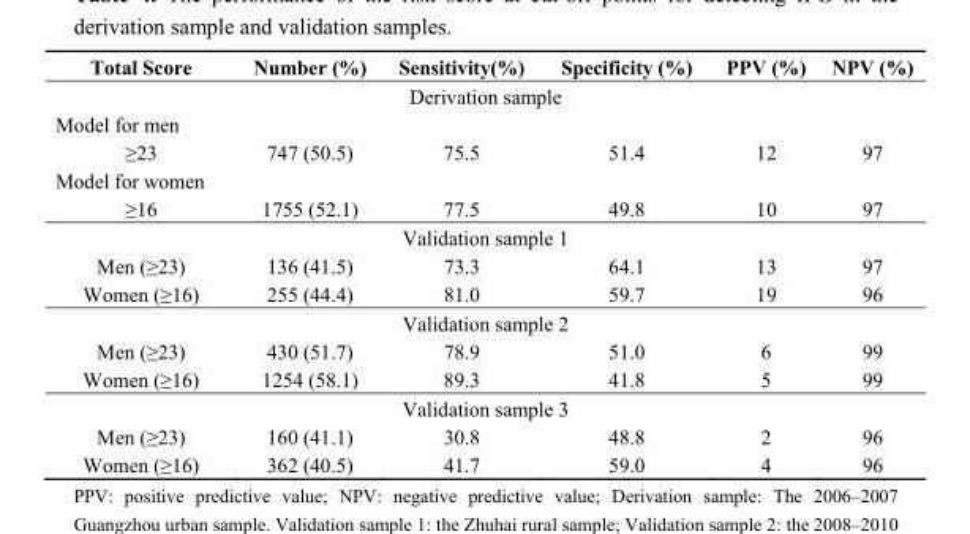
<table><thead><tr><td>Total Score</td><td>Number (%)</td><td>Sensitivity(%)</td><td>Specificity (%)</td><td>PPV (%)</td><td>NPV (%)</td></tr></thead><tbody><tr><td colspan="6">Derivation sample</td></tr><tr><td colspan="6">Model for men</td></tr><tr><td>≥23</td><td>747 (50.5)</td><td>75.5</td><td>51.4</td><td>12</td><td>97</td></tr><tr><td colspan="6">Model for women</td></tr><tr><td>≥16</td><td>1755 (52.1)</td><td>77.5</td><td>49.8</td><td>10</td><td>97</td></tr><tr><td colspan="6">Validation sample 1</td></tr><tr><td>Men (≥23)</td><td>136 (41.5)</td><td>73.3</td><td>64.1</td><td>13</td><td>97</td></tr><tr><td>Women (≥16)</td><td>255 (44.4)</td><td>81.0</td><td>59.7</td><td>19</td><td>96</td></tr><tr><td colspan="6">Validation sample 2</td></tr><tr><td>Men (≥23)</td><td>430 (51.7)</td><td>78.9</td><td>51.0</td><td>6</td><td>99</td></tr><tr><td>Women (≥16)</td><td>1254 (58.1)</td><td>89.3</td><td>41.8</td><td>5</td><td>99</td></tr><tr><td colspan="6">Validation sample 3</td></tr><tr><td>Men (≥23)</td><td>160 (41.1)</td><td>30.8</td><td>48.8</td><td>2</td><td>96</td></tr><tr><td>Women (≥16)</td><td>362 (40.5)</td><td>41.7</td><td>59.0</td><td>4</td><td>96</td></tr></tbody></table>